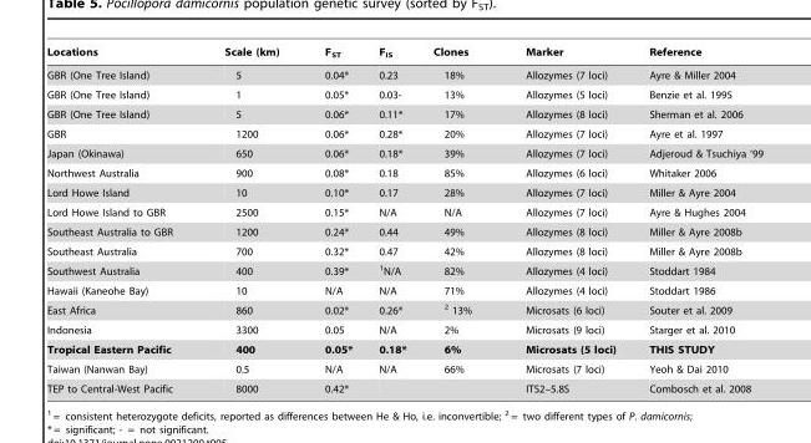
<table><thead><tr><td>Locations</td><td>Scale (km)</td><td>F<sub>ST</sub></td><td>F<sub>IS</sub></td><td>Clones</td><td>Marker</td><td>Reference</td></tr></thead><tbody><tr><td>GBR (One Tree Island)</td><td>5</td><td>0.04*</td><td>0.23</td><td>18%</td><td>Allozymes (7 loci)</td><td>Ayre &amp; Miller 2004</td></tr><tr><td>GBR (One Tree Island)</td><td>1</td><td>0.05*</td><td>0.03-</td><td>13%</td><td>Allozymes (5 loci)</td><td>Benzie et al. 1995</td></tr><tr><td>GBR (One Tree Island)</td><td>5</td><td>0.06*</td><td>0.11*</td><td>17%</td><td>Allozymes (8 loci)</td><td>Sherman et al. 2006</td></tr><tr><td>GBR</td><td>1200</td><td>0.06*</td><td>0.28*</td><td>20%</td><td>Allozymes (7 loci)</td><td>Ayre et al. 1997</td></tr><tr><td>Japan (Okinawa)</td><td>650</td><td>0.06*</td><td>0.18*</td><td>39%</td><td>Allozymes (7 loci)</td><td>Adjeroud &amp; Tsuchiya ‘99</td></tr><tr><td>Northwest Australia</td><td>900</td><td>0.08*</td><td>0.18</td><td>85%</td><td>Allozymes (6 loci)</td><td>Whitaker 2006</td></tr><tr><td>Lord Howe Island</td><td>10</td><td>0.10*</td><td>0.17</td><td>28%</td><td>Allozymes (7 loci)</td><td>Miller &amp; Ayre 2004</td></tr><tr><td>Lord Howe Island to GBR</td><td>2500</td><td>0.15*</td><td>N/A</td><td>N/A</td><td>Allozymes (7 loci)</td><td>Ayre &amp; Hughes 2004</td></tr><tr><td>Southeast Australia to GBR</td><td>1200</td><td>0.24*</td><td>0.44</td><td>49%</td><td>Allozymes (8 loci)</td><td>Miller &amp; Ayre 2008b</td></tr><tr><td>Southeast Australia</td><td>700</td><td>0.32*</td><td>0.47</td><td>42%</td><td>Allozymes (8 loci)</td><td>Miller &amp; Ayre 2008b</td></tr><tr><td>Southwest Australia</td><td>400</td><td>0.39*</td><td>1N/A</td><td>82%</td><td>Allozymes (4 loci)</td><td>Stoddart 1984</td></tr><tr><td>Hawaii (Kaneohe Bay)</td><td>10</td><td>N/A</td><td>N/A</td><td>71%</td><td>Allozymes (4 loci)</td><td>Stoddart 1986</td></tr><tr><td>East Africa</td><td>860</td><td>0.02*</td><td>0.26*</td><td><sup>2</sup> 13%</td><td>Microsats (6 loci)</td><td>Souter et al. 2009</td></tr><tr><td>Indonesia</td><td>3300</td><td>0.05</td><td>N/A</td><td>2%</td><td>Microsats (9 loci)</td><td>Starger et al. 2010</td></tr><tr><td>Tropical Eastern Pacific</td><td>400</td><td>0.05*</td><td>0.18*</td><td>6%</td><td>Microsats (5 loci)</td><td>THIS STUDY</td></tr><tr><td>Taiwan (Nanwan Bay)</td><td>0.5</td><td>N/A</td><td>N/A</td><td>66%</td><td>Microsats (7 loci)</td><td>Yeoh &amp; Dai 2010</td></tr><tr><td>TEP to Central-West Pacific</td><td>8000</td><td>0.42*</td><td></td><td></td><td>ITS2–5.8S</td><td>Combosch et al. 2008</td></tr></tbody></table>